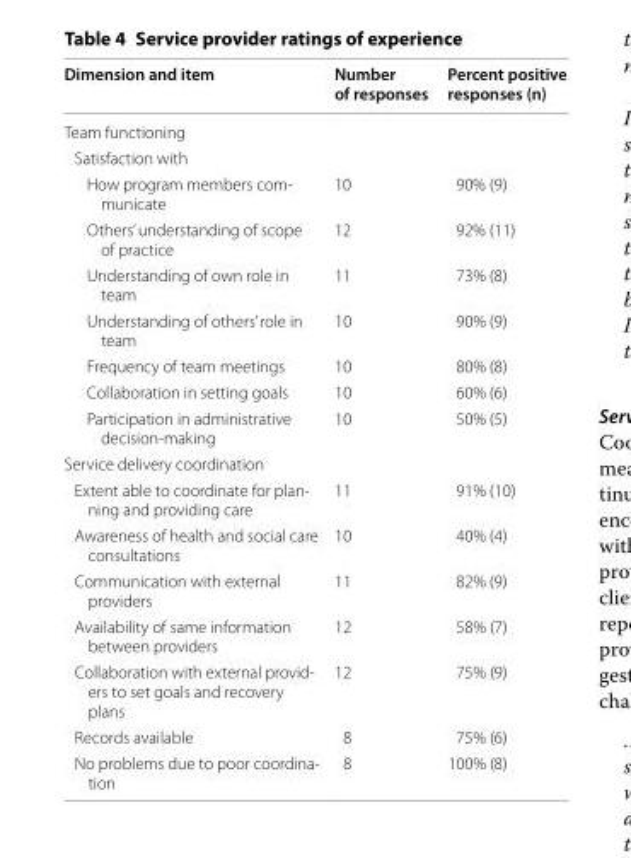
<table><thead><tr><td>Dimension and item</td><td>Number of responses</td><td>Percent positive responses (n)</td></tr></thead><tbody><tr><td colspan="3">Team functioning</td></tr><tr><td colspan="3">Satisfaction with</td></tr><tr><td>How program members com- municate</td><td>10</td><td>90% (9)</td></tr><tr><td>Others’ understanding of scope of practice</td><td>12</td><td>92% (11)</td></tr><tr><td>Understanding of own role in team</td><td>11</td><td>73% (8)</td></tr><tr><td>Understanding of others’ role in team</td><td>10</td><td>90% (9)</td></tr><tr><td>Frequency of team meetings</td><td>10</td><td>80% (8)</td></tr><tr><td>Collaboration in setting goals</td><td>10</td><td>60% (6)</td></tr><tr><td>Participation in administrative decision-making</td><td>10</td><td>50% (5)</td></tr><tr><td colspan="3">Service delivery coordination</td></tr><tr><td>Extent able to coordinate for plan- ning and providing care</td><td>11</td><td>91% (10)</td></tr><tr><td>Awareness of health and social care consultations</td><td>10</td><td>40% (4)</td></tr><tr><td>Communication with external providers</td><td>11</td><td>82% (9)</td></tr><tr><td>Availability of same information between providers</td><td>12</td><td>58% (7)</td></tr><tr><td>Collaboration with external provid- ers to set goals and recovery plans</td><td>12</td><td>75% (9)</td></tr><tr><td>Records available</td><td>8</td><td>75% (6)</td></tr><tr><td>No problems due to poor coordina- tion</td><td>8</td><td>100% (8)</td></tr></tbody></table>